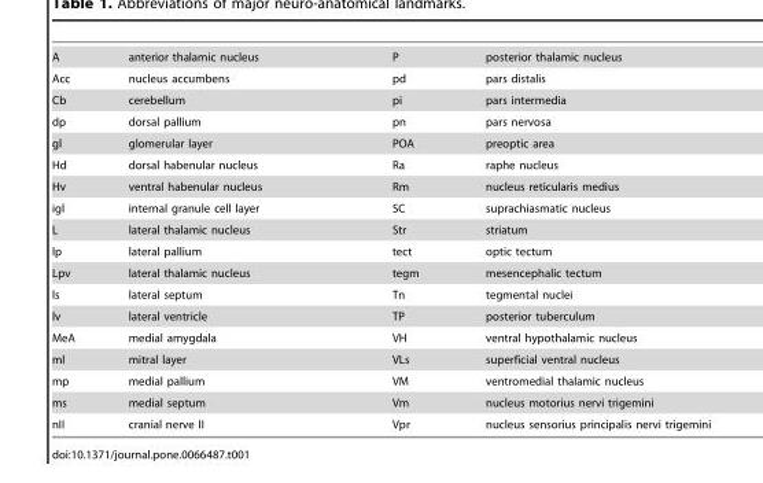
<table><tbody><tr><td>A</td><td>anterior thalamic nucleus</td><td>P</td><td>posterior thalamic nucleus</td></tr><tr><td>Acc</td><td>nucleus accumbens</td><td>pd</td><td>pars distalis</td></tr><tr><td>Cb</td><td>cerebellum</td><td>pi</td><td>pars intermedia</td></tr><tr><td>dp</td><td>dorsal pallium</td><td>pn</td><td>pars nervosa</td></tr><tr><td>gl</td><td>glomerular layer</td><td>POA</td><td>preoptic area</td></tr><tr><td>Hd</td><td>dorsal habenular nucleus</td><td>Ra</td><td>raphe nucleus</td></tr><tr><td>Hv</td><td>ventral habenular nucleus</td><td>Rm</td><td>nucleus reticularis medius</td></tr><tr><td>igl</td><td>internal granule cell layer</td><td>SC</td><td>suprachiasmatic nucleus</td></tr><tr><td>L</td><td>lateral thalamic nucleus</td><td>Str</td><td>striatum</td></tr><tr><td>lp</td><td>lateral pallium</td><td>tect</td><td>optic tectum</td></tr><tr><td>Lpv</td><td>lateral thalamic nucleus</td><td>tegm</td><td>mesencephalic tectum</td></tr><tr><td>ls</td><td>lateral septum</td><td>Tn</td><td>tegmental nuclei</td></tr><tr><td>lv</td><td>lateral ventricle</td><td>TP</td><td>posterior tuberculum</td></tr><tr><td>MeA</td><td>medial amygdala</td><td>VH</td><td>ventral hypothalamic nucleus</td></tr><tr><td>ml</td><td>mitral layer</td><td>VLs</td><td>superficial ventral nucleus</td></tr><tr><td>mp</td><td>medial pallium</td><td>VM</td><td>ventromedial thalamic nucleus</td></tr><tr><td>ms</td><td>medial septum</td><td>Vm</td><td>nucleus motorius nervi trigemini</td></tr><tr><td>nII</td><td>cranial nerve II</td><td>Vpr</td><td>nucleus sensorius principalis nervi trigemini</td></tr></tbody></table>